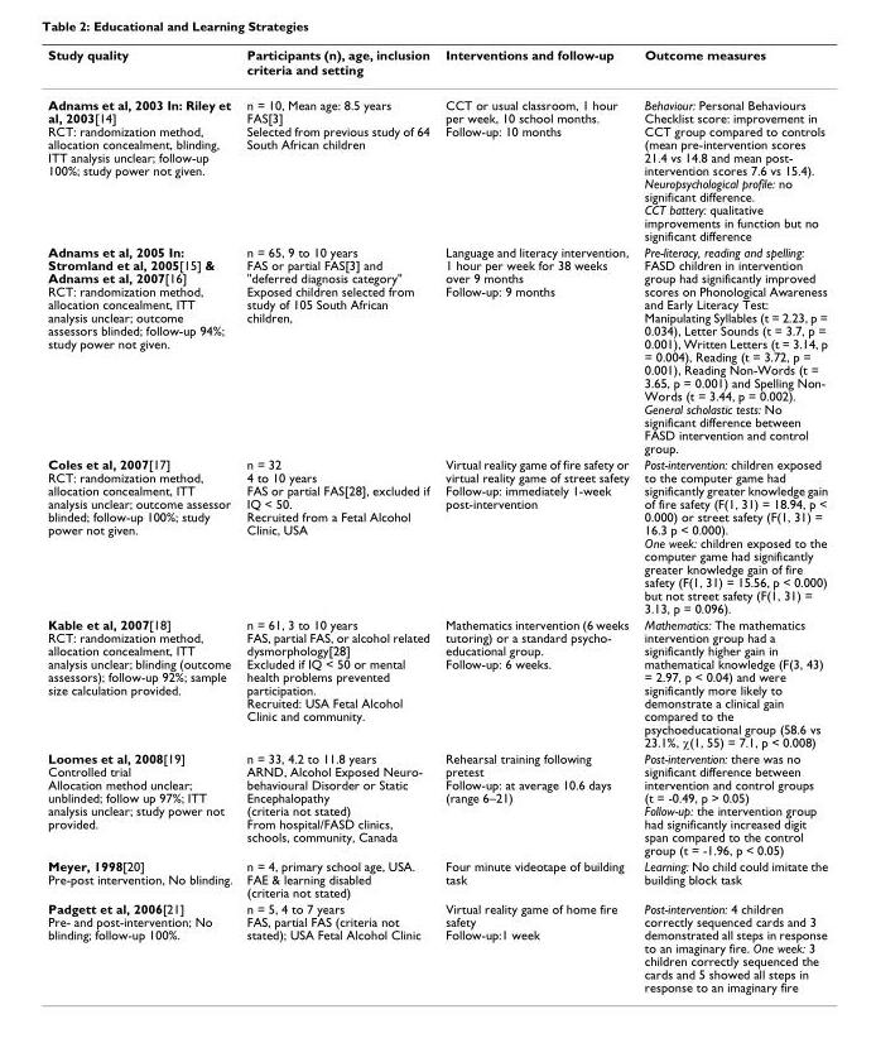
<table><thead><tr><td>Study quality</td><td>Participants (n), age, inclusion criteria and setting</td><td>Interventions and follow-up</td><td>Outcome measures</td></tr></thead><tbody><tr><td>Adnams et al, 2003 In: Riley et al, 2003[14] RCT: randomization method, allocation concealment, blinding, ITT analysis unclear; follow-up 100%; study power not given.</td><td>n = 10, Mean age: 8.5 years FAS[3] Selected from previous study of 64 South African children</td><td>CCT or usual classroom, 1 hour per week, 10 school months. Follow-up: 10 months</td><td>Behaviour: Personal Behaviours Checklist score: improvement in CCT group compared to controls (mean pre-intervention scores 21.4 vs 14.8 and mean post- intervention scores 7.6 vs 15.4). Neuropsychological profile: no significant difference. CCT battery: qualitative improvements in function but no significant difference</td></tr><tr><td>Adnams et al, 2005 In: Stromland et al, 2005[15] &amp; Adnams et al, 2007[16] RCT: randomization method, allocation concealment, ITT analysis unclear; outcome assessors blinded; follow-up 94%; study power not given.</td><td>n = 65, 9 to 10 years FAS or partial FAS[3] and &quot;deferred diagnosis category&quot; Exposed children selected from study of 105 South African children,</td><td>Language and literacy intervention, 1 hour per week for 38 weeks over 9 months Follow-up: 9 months</td><td>Pre-literacy, reading and spelling: FASD children in intervention group had significantly improved scores on Phonological Awareness and Early Literacy Test: Manipulating Syllables (t = 2.23, p = 0.034), Letter Sounds (t = 3.7, p = 0.001), Written Letters (t = 3.14, p = 0.004), Reading (t = 3.72, p = 0.001), Reading Non-Words (t = 3.65, p = 0.001) and Spelling Non- Words (t = 3.44, p = 0.002). General scholastic tests: No significant difference between FASD intervention and control group.</td></tr><tr><td>Coles et al, 2007[17] RCT: randomization method, allocation concealment, ITT analysis unclear; outcome assessor blinded; follow-up 100%; study power not given.</td><td>n = 32 4 to 10 years FAS or partial FAS[28], excluded if IQ &lt; 50. Recruited from a Fetal Alcohol Clinic, USA</td><td>Virtual reality game of fire safety or virtual reality game of street safety Follow-up: immediately 1-week post-intervention</td><td>Post-intervention: children exposed to the computer game had significantly greater knowledge gain of fire safety (F(1, 31) = 18.94, p &lt; 0.000) or street safety (F(1, 31) = 16.3 p &lt; 0.000). One week: children exposed to the computer game had significantly greater knowledge gain of fire safety (F(1, 31) = 15.56, p &lt; 0.000) but not street safety (F(1, 31) = 3.13, p = 0.096).</td></tr><tr><td>Kable et al, 2007[18] RCT: randomization method, allocation concealment, ITT analysis unclear; blinding (outcome assessors); follow-up 92%; sample size calculation provided.</td><td>n = 61, 3 to 10 years FAS, partial FAS, or alcohol related dysmorphology[28] Excluded if IQ &lt; 50 or mental health problems prevented participation. Recruited: USA Fetal Alcohol Clinic and community.</td><td>Mathematics intervention (6 weeks tutoring) or a standard psycho- educational group. Follow-up: 6 weeks.</td><td>Mathematics: The mathematics intervention group had a significantly higher gain in mathematical knowledge (F(3, 43) = 2.97, p &lt; 0.04) and were significantly more likely to demonstrate a clinical gain compared to the psychoeducational group (58.6 vs 23.1%, χ(1, 55) = 7.1, p &lt; 0.008)</td></tr><tr><td>Loomes et al, 2008[19] Controlled trial Allocation method unclear; unblinded; follow up 97%; ITT analysis unclear; study power not provided.</td><td>n = 33, 4.2 to 11.8 years ARND, Alcohol Exposed Neuro- behavioural Disorder or Static Encephalopathy (criteria not stated) From hospital/FASD clinics, schools, community, Canada</td><td>Rehearsal training following pretest Follow-up: at average 10.6 days (range 6–21)</td><td>Post-intervention: there was no significant difference between intervention and control groups (t = -0.49, p &gt; 0.05) Follow-up: the intervention group had significantly increased digit span compared to the control group (t = -1.96, p &lt; 0.05)</td></tr><tr><td>Meyer, 1998[20] Pre-post intervention, No blinding.</td><td>n = 4, primary school age, USA. FAE &amp; learning disabled (criteria not stated)</td><td>Four minute videotape of building task</td><td>Learning: No child could imitate the building block task</td></tr><tr><td>Padgett et al, 2006[21] Pre- and post-intervention; No blinding; follow-up 100%.</td><td>n = 5, 4 to 7 years FAS, partial FAS (criteria not stated); USA Fetal Alcohol Clinic</td><td>Virtual reality game of home fire safety Follow-up:1 week</td><td>Post-intervention: 4 children correctly sequenced cards and 3 demonstrated all steps in response to an imaginary fire. One week: 3 children correctly sequenced the cards and 5 showed all steps in response to an imaginary fire</td></tr></tbody></table>